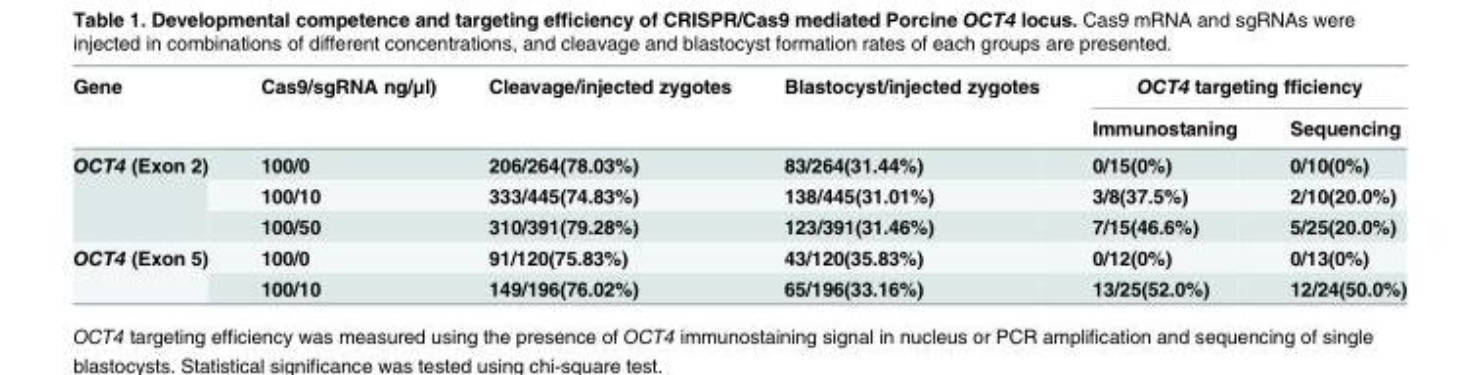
<table><thead><tr><td rowspan="2">Gene</td><td rowspan="2">Cas9/sgRNA ng/μl)</td><td rowspan="2">Cleavage/injected zygotes</td><td rowspan="2">Blastocyst/injected zygotes</td><td colspan="2">OCT4 targeting fficiency</td></tr><tr><td>Immunostaning</td><td>Sequencing</td></tr></thead><tbody><tr><td rowspan="3">OCT4 (Exon 2)</td><td>100/0</td><td>206/264(78.03%)</td><td>83/264(31.44%)</td><td>0/15(0%)</td><td>0/10(0%)</td></tr><tr><td>100/10</td><td>333/445(74.83%)</td><td>138/445(31.01%)</td><td>3/8(37.5%)</td><td>2/10(20.0%)</td></tr><tr><td>100/50</td><td>310/391(79.28%)</td><td>123/391(31.46%)</td><td>7/15(46.6%)</td><td>5/25(20.0%)</td></tr><tr><td rowspan="2">OCT4 (Exon 5)</td><td>100/0</td><td>91/120(75.83%)</td><td>43/120(35.83%)</td><td>0/12(0%)</td><td>0/13(0%)</td></tr><tr><td>100/10</td><td>149/196(76.02%)</td><td>65/196(33.16%)</td><td>13/25(52.0%)</td><td>12/24(50.0%)</td></tr></tbody></table>